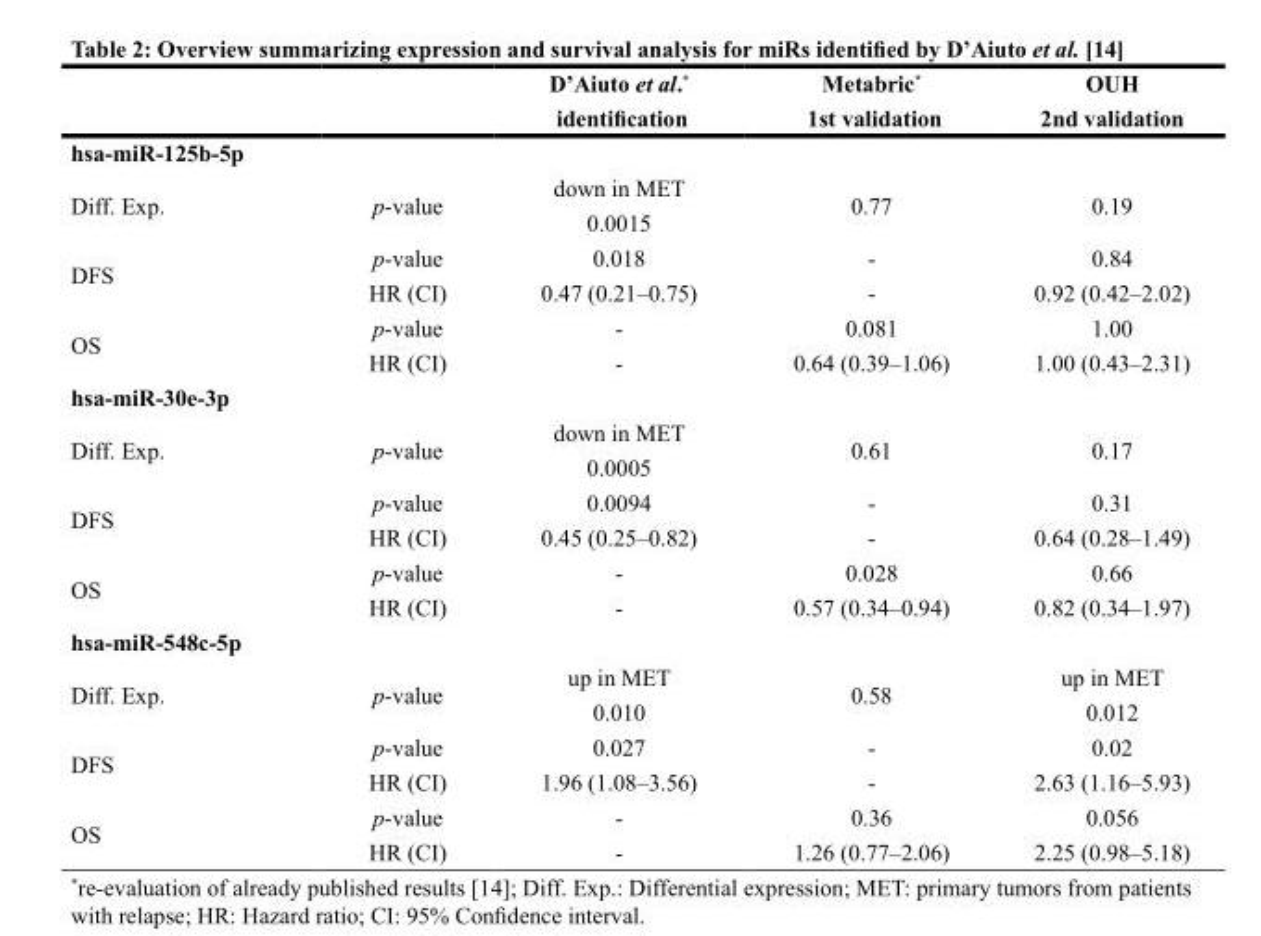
<table><thead><tr><td></td><td></td><td>D’Aiuto et al.* identification</td><td>Metabric* 1st validation</td><td>OUH 2nd validation</td></tr></thead><tbody><tr><td colspan="5">hsa-miR-125b-5p</td></tr><tr><td rowspan="2">Diff. Exp.</td><td rowspan="2">p-value</td><td>down in MET</td><td rowspan="2">0.77</td><td rowspan="2">0.19</td></tr><tr><td>0.0015</td></tr><tr><td rowspan="2">DFS</td><td>p-value</td><td>0.018</td><td>-</td><td>0.84</td></tr><tr><td>HR (CI)</td><td>0.47 (0.21–0.75)</td><td>-</td><td>0.92 (0.42–2.02)</td></tr><tr><td rowspan="2">OS</td><td>p-value</td><td>-</td><td>0.081</td><td>1.00</td></tr><tr><td>HR (CI)</td><td>-</td><td>0.64 (0.39–1.06)</td><td>1.00 (0.43–2.31)</td></tr><tr><td colspan="5">hsa-miR-30e-3p</td></tr><tr><td rowspan="2">Diff. Exp.</td><td rowspan="2">p-value</td><td>down in MET</td><td rowspan="2">0.61</td><td rowspan="2">0.17</td></tr><tr><td>0.0005</td></tr><tr><td rowspan="2">DFS</td><td>p-value</td><td>0.0094</td><td>-</td><td>0.31</td></tr><tr><td>HR (CI)</td><td>0.45 (0.25–0.82)</td><td>-</td><td>0.64 (0.28–1.49)</td></tr><tr><td rowspan="2">OS</td><td>p-value</td><td>-</td><td>0.028</td><td>0.66</td></tr><tr><td>HR (CI)</td><td>-</td><td>0.57 (0.34–0.94)</td><td>0.82 (0.34–1.97)</td></tr><tr><td colspan="5">hsa-miR-548c-5p</td></tr><tr><td rowspan="2">Diff. Exp.</td><td rowspan="2">p-value</td><td>up in MET</td><td rowspan="2">0.58</td><td>up in MET</td></tr><tr><td>0.010</td><td>0.012</td></tr><tr><td rowspan="2">DFS</td><td>p-value</td><td>0.027</td><td>-</td><td>0.02</td></tr><tr><td>HR (CI)</td><td>1.96 (1.08–3.56)</td><td>-</td><td>2.63 (1.16–5.93)</td></tr><tr><td rowspan="2">OS</td><td>p-value</td><td>-</td><td>0.36</td><td>0.056</td></tr><tr><td>HR (CI)</td><td>-</td><td>1.26 (0.77–2.06)</td><td>2.25 (0.98–5.18)</td></tr></tbody></table>